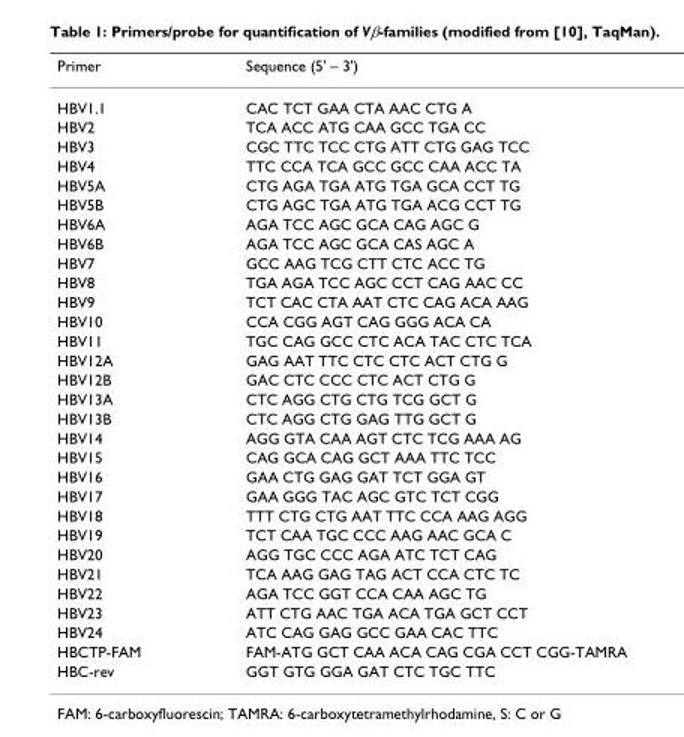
<table><thead><tr><td>Primer</td><td>Sequence (5&#x27; – 3&#x27;)</td></tr></thead><tbody><tr><td>HBV1.1</td><td>CAC TCT GAA CTA AAC CTG A</td></tr><tr><td>HBV2</td><td>TCA ACC ATG CAA GCC TGA CC</td></tr><tr><td>HBV3</td><td>CGC TTC TCC CTG ATT CTG GAG TCC</td></tr><tr><td>HBV4</td><td>TTC CCA TCA GCC GCC CAA ACC TA</td></tr><tr><td>HBV5A</td><td>CTG AGA TGA ATG TGA GCA CCT TG</td></tr><tr><td>HBV5B</td><td>CTG AGC TGA ATG TGA ACG CCT TG</td></tr><tr><td>HBV6A</td><td>AGA TCC AGC GCA CAG AGC G</td></tr><tr><td>HBV6B</td><td>AGA TCC AGC GCA CAS AGC A</td></tr><tr><td>HBV7</td><td>GCC AAG TCG CTT CTC ACC TG</td></tr><tr><td>HBV8</td><td>TGA AGA TCC AGC CCT CAG AAC CC</td></tr><tr><td>HBV9</td><td>TCT CAC CTA AAT CTC CAG ACA AAG</td></tr><tr><td>HBV10</td><td>CCA CGG AGT CAG GGG ACA CA</td></tr><tr><td>HBV11</td><td>TGC CAG GCC CTC ACA TAC CTC TCA</td></tr><tr><td>HBV12A</td><td>GAG AAT TTC CTC CTC ACT CTG G</td></tr><tr><td>HBV12B</td><td>GAC CTC CCC CTC ACT CTG G</td></tr><tr><td>HBV13A</td><td>CTC AGG CTG CTG TCG GCT G</td></tr><tr><td>HBV13B</td><td>CTC AGG CTG GAG TTG GCT G</td></tr><tr><td>HBV14</td><td>AGG GTA CAA AGT CTC TCG AAA AG</td></tr><tr><td>HBV15</td><td>CAG GCA CAG GCT AAA TTC TCC</td></tr><tr><td>HBV16</td><td>GAA CTG GAG GAT TCT GGA GT</td></tr><tr><td>HBV17</td><td>GAA GGG TAC AGC GTC TCT CGG</td></tr><tr><td>HBV18</td><td>TTT CTG CTG AAT TTC CCA AAG AGG</td></tr><tr><td>HBV19</td><td>TCT CAA TGC CCC AAG AAC GCA C</td></tr><tr><td>HBV20</td><td>AGG TGC CCC AGA ATC TCT CAG</td></tr><tr><td>HBV21</td><td>TCA AAG GAG TAG ACT CCA CTC TC</td></tr><tr><td>HBV22</td><td>AGA TCC GGT CCA CAA AGC TG</td></tr><tr><td>HBV23</td><td>ATT CTG AAC TGA ACA TGA GCT CCT</td></tr><tr><td>HBV24</td><td>ATC CAG GAG GCC GAA CAC TTC</td></tr><tr><td>HBCTP-FAM</td><td>FAM-ATG GCT CAA ACA CAG CGA CCT CGG-TAMRA</td></tr><tr><td>HBC-rev</td><td>GGT GTG GGA GAT CTC TGC TTC</td></tr></tbody></table>